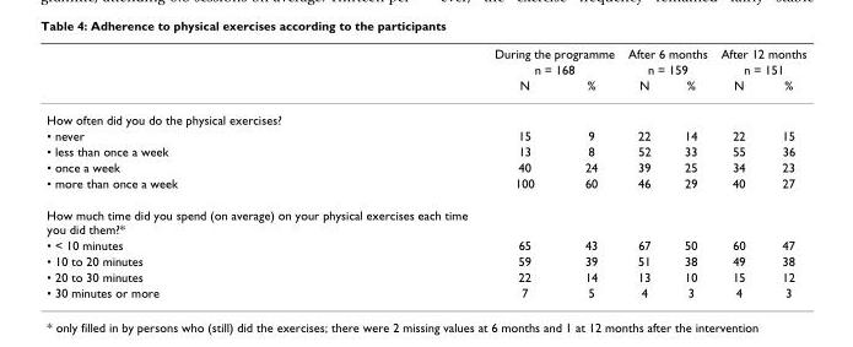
<table><thead><tr><td rowspan="3"></td><td rowspan="2" colspan="2">During the programme n = 168</td><td rowspan="2" colspan="2">After 6 months n = 159</td><td rowspan="2" colspan="2">After 12 months n = 151</td></tr><tr></tr><tr><td>N</td><td>%</td><td>N</td><td>%</td><td>N</td><td>%</td></tr></thead><tbody><tr><td colspan="7">How often did you do the physical exercises?</td></tr><tr><td>• never</td><td>15</td><td>9</td><td>22</td><td>14</td><td>22</td><td>15</td></tr><tr><td>• less than once a week</td><td>13</td><td>8</td><td>52</td><td>33</td><td>55</td><td>36</td></tr><tr><td>• once a week</td><td>40</td><td>24</td><td>39</td><td>25</td><td>34</td><td>23</td></tr><tr><td>• more than once a week</td><td>100</td><td>60</td><td>46</td><td>29</td><td>40</td><td>27</td></tr><tr><td colspan="7">How much time did you spend (on average) on your physical exercises each time you did them?*</td></tr><tr><td>• &lt; 10 minutes</td><td>65</td><td>43</td><td>67</td><td>50</td><td>60</td><td>47</td></tr><tr><td>• 10 to 20 minutes</td><td>59</td><td>39</td><td>51</td><td>38</td><td>49</td><td>38</td></tr><tr><td>• 20 to 30 minutes</td><td>22</td><td>14</td><td>13</td><td>10</td><td>15</td><td>12</td></tr><tr><td>• 30 minutes or more</td><td>7</td><td>5</td><td>4</td><td>3</td><td>4</td><td>3</td></tr></tbody></table>